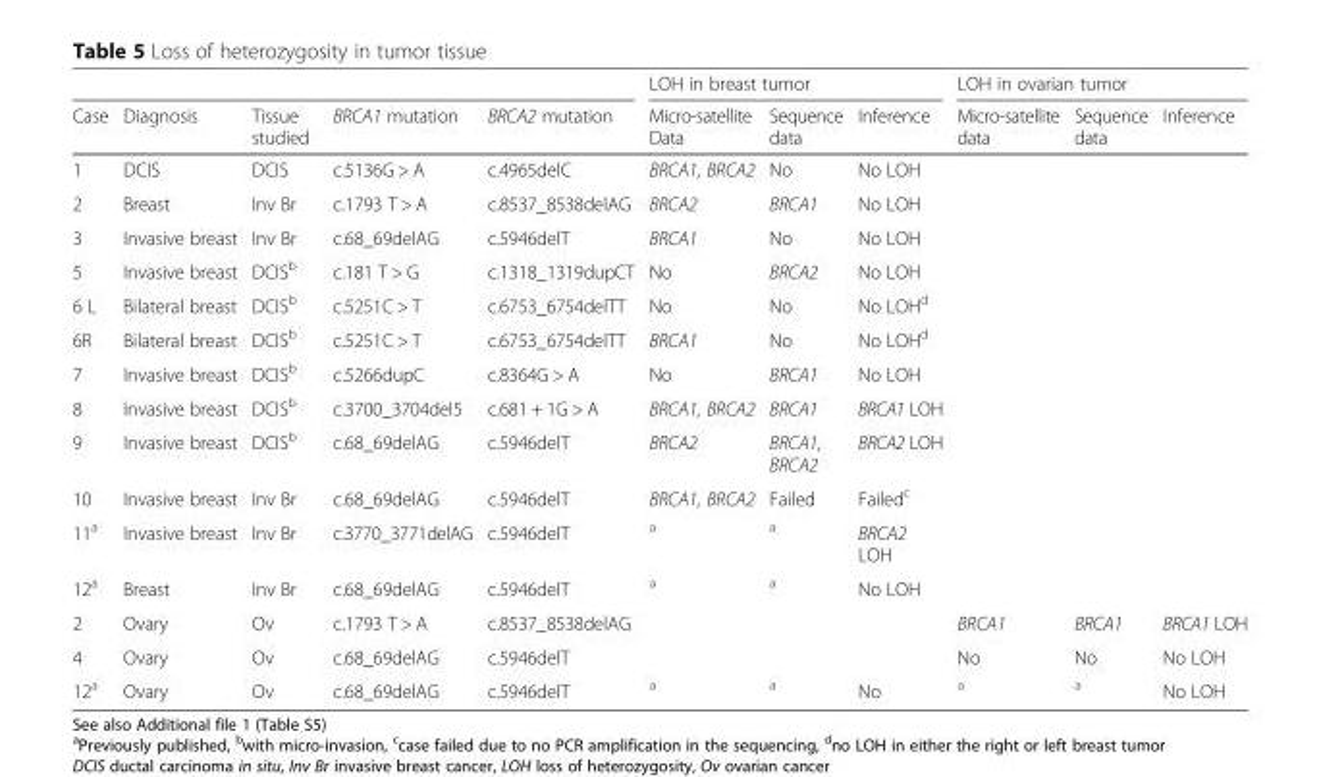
<table><thead><tr><td rowspan="2">Case</td><td rowspan="2">Diagnosis</td><td rowspan="2">Tissue studied</td><td rowspan="2">BRCA1 mutation</td><td rowspan="2">BRCA2 mutation</td><td colspan="3">LOH in breast tumor</td><td colspan="3">LOH in ovarian tumor</td></tr><tr><td>Micro-satellite Data</td><td>Sequence data</td><td>Inference</td><td>Micro-satellite data</td><td>Sequence data</td><td>Inference</td></tr></thead><tbody><tr><td>1</td><td>DCIS</td><td>DCIS</td><td>c.5136G &gt; A</td><td>c.4965delC</td><td>BRCA1, BRCA2</td><td>No</td><td>No LOH</td><td></td><td></td><td></td></tr><tr><td>2</td><td>Breast</td><td>Inv Br</td><td>c.1793 T &gt; A</td><td>c.8537_8538delAG</td><td>BRCA2</td><td>BRCA1</td><td>No LOH</td><td></td><td></td><td></td></tr><tr><td>3</td><td>Invasive breast</td><td>Inv Br</td><td>c.68_69delAG</td><td>c.5946delT</td><td>BRCA1</td><td>No</td><td>No LOH</td><td></td><td></td><td></td></tr><tr><td>5</td><td>Invasive breast</td><td>DCIS<sup>b</sup></td><td>c.181 T &gt; G</td><td>c.1318_1319dupCT</td><td>No</td><td>BRCA2</td><td>No LOH</td><td></td><td></td><td></td></tr><tr><td>6 L</td><td>Bilateral breast</td><td>DCIS<sup>b</sup></td><td>c.5251C &gt; T</td><td>c.6753_6754delTT</td><td>No</td><td>No</td><td>No LOH<sup>d</sup></td><td></td><td></td><td></td></tr><tr><td>6R</td><td>Bilateral breast</td><td>DCIS<sup>b</sup></td><td>c.5251C &gt; T</td><td>c.6753_6754delTT</td><td>BRCA1</td><td>No</td><td>No LOH<sup>d</sup></td><td></td><td></td><td></td></tr><tr><td>7</td><td>Invasive breast</td><td>DCIS<sup>b</sup></td><td>c.5266dupC</td><td>c.8364G &gt; A</td><td>No</td><td>BRCA1</td><td>No LOH</td><td></td><td></td><td></td></tr><tr><td>8</td><td>Invasive breast</td><td>DCIS<sup>b</sup></td><td>c.3700_3704del5</td><td>c.681 + 1G &gt; A</td><td>BRCA1, BRCA2</td><td>BRCA1</td><td>BRCA1 LOH</td><td></td><td></td><td></td></tr><tr><td>9</td><td>Invasive breast</td><td>DCIS<sup>b</sup></td><td>c.68_69delAG</td><td>c.5946delT</td><td>BRCA2</td><td>BRCA1, BRCA2</td><td>BRCA2 LOH</td><td></td><td></td><td></td></tr><tr><td>10</td><td>Invasive breast</td><td>Inv Br</td><td>c.68_69delAG</td><td>c.5946delT</td><td>BRCA1, BRCA2</td><td>Failed</td><td>Failed<sup>c</sup></td><td></td><td></td><td></td></tr><tr><td>11<sup>a</sup></td><td>Invasive breast</td><td>Inv Br</td><td>c.3770_3771delAG</td><td>c.5946delT</td><td><sup>a</sup></td><td><sup>a</sup></td><td>BRCA2 LOH</td><td></td><td></td><td></td></tr><tr><td>12<sup>a</sup></td><td>Breast</td><td>Inv Br</td><td>c.68_69delAG</td><td>c.5946delT</td><td><sup>a</sup></td><td><sup>a</sup></td><td>No LOH</td><td></td><td></td><td></td></tr><tr><td>2</td><td>Ovary</td><td>Ov</td><td>c.1793 T &gt; A</td><td>c.8537_8538delAG</td><td></td><td></td><td></td><td>BRCA1</td><td>BRCA1</td><td>BRCA1 LOH</td></tr><tr><td>4</td><td>Ovary</td><td>Ov</td><td>c.68_69delAG</td><td>c.5946delT</td><td></td><td></td><td></td><td>No</td><td>No</td><td>No LOH</td></tr><tr><td>12<sup>a</sup></td><td>Ovary</td><td>Ov</td><td>c.68_69delAG</td><td>c.5946delT</td><td><sup>a</sup></td><td><sup>a</sup></td><td>No</td><td><sup>a</sup></td><td><sup>a</sup></td><td>No LOH</td></tr></tbody></table>